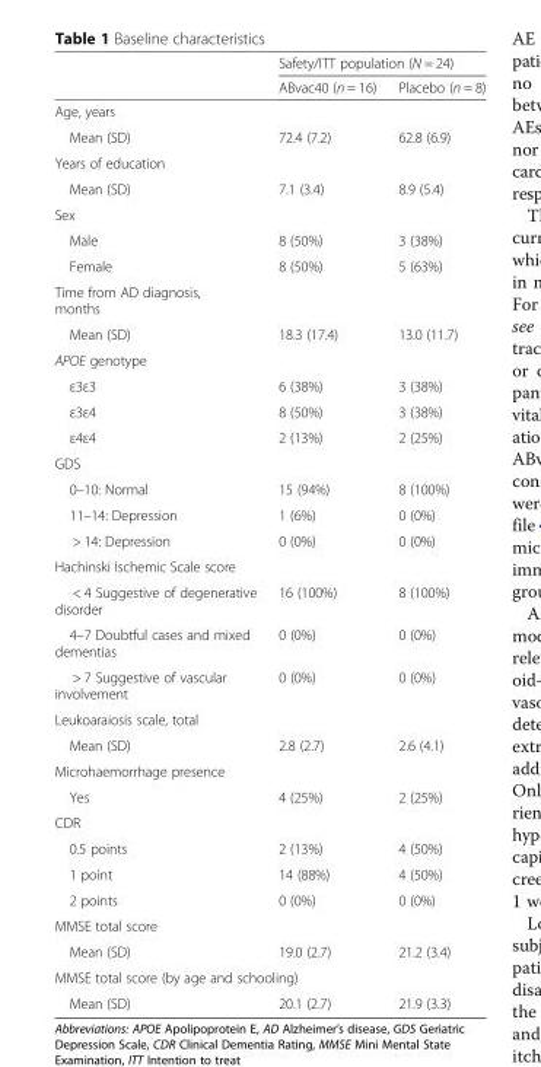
<table><thead><tr><td rowspan="2"></td><td colspan="2">Safety/ITT population (N = 24)</td></tr><tr><td>ABvac40 (n = 16)</td><td>Placebo (n = 8)</td></tr></thead><tbody><tr><td colspan="3">Age, years</td></tr><tr><td>Mean (SD)</td><td>72.4 (7.2)</td><td>62.8 (6.9)</td></tr><tr><td colspan="3">Years of education</td></tr><tr><td>Mean (SD)</td><td>7.1 (3.4)</td><td>8.9 (5.4)</td></tr><tr><td colspan="3">Sex</td></tr><tr><td>Male</td><td>8 (50%)</td><td>3 (38%)</td></tr><tr><td>Female</td><td>8 (50%)</td><td>5 (63%)</td></tr><tr><td colspan="3">Time from AD diagnosis, months</td></tr><tr><td>Mean (SD)</td><td>18.3 (17.4)</td><td>13.0 (11.7)</td></tr><tr><td colspan="3">APOE genotype</td></tr><tr><td>ε3ε3</td><td>6 (38%)</td><td>3 (38%)</td></tr><tr><td>ε3ε4</td><td>8 (50%)</td><td>3 (38%)</td></tr><tr><td>ε4ε4</td><td>2 (13%)</td><td>2 (25%)</td></tr><tr><td colspan="3">GDS</td></tr><tr><td>0–10: Normal</td><td>15 (94%)</td><td>8 (100%)</td></tr><tr><td>11–14: Depression</td><td>1 (6%)</td><td>0 (0%)</td></tr><tr><td>&gt; 14: Depression</td><td>0 (0%)</td><td>0 (0%)</td></tr><tr><td colspan="3">Hachinski Ischemic Scale score</td></tr><tr><td>&lt; 4 Suggestive of degenerative disorder</td><td>16 (100%)</td><td>8 (100%)</td></tr><tr><td>4–7 Doubtful cases and mixed dementias</td><td>0 (0%)</td><td>0 (0%)</td></tr><tr><td>&gt; 7 Suggestive of vascular involvement</td><td>0 (0%)</td><td>0 (0%)</td></tr><tr><td colspan="3">Leukoaraiosis scale, total</td></tr><tr><td>Mean (SD)</td><td>2.8 (2.7)</td><td>2.6 (4.1)</td></tr><tr><td colspan="3">Microhaemorrhage presence</td></tr><tr><td>Yes</td><td>4 (25%)</td><td>2 (25%)</td></tr><tr><td colspan="3">CDR</td></tr><tr><td>0.5 points</td><td>2 (13%)</td><td>4 (50%)</td></tr><tr><td>1 point</td><td>14 (88%)</td><td>4 (50%)</td></tr><tr><td>2 points</td><td>0 (0%)</td><td>0 (0%)</td></tr><tr><td colspan="3">MMSE total score</td></tr><tr><td>Mean (SD)</td><td>19.0 (2.7)</td><td>21.2 (3.4)</td></tr><tr><td colspan="3">MMSE total score (by age and schooling)</td></tr><tr><td>Mean (SD)</td><td>20.1 (2.7)</td><td>21.9 (3.3)</td></tr></tbody></table>